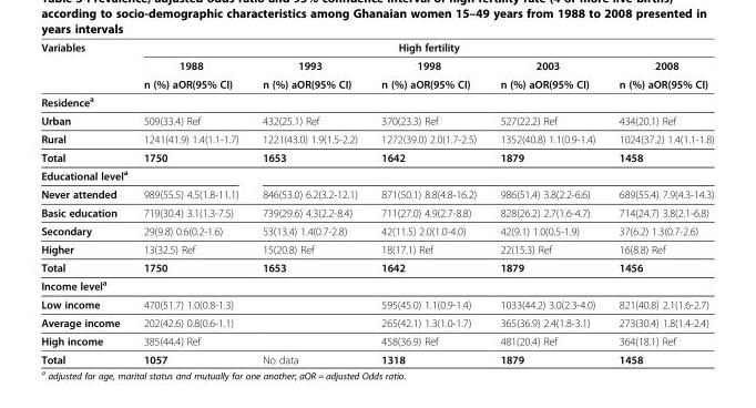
<table><thead><tr><td rowspan="3">Variables</td><td colspan="5">High fertility</td></tr><tr><td rowspan="2">1988 n (%) aOR(95% CI)</td><td rowspan="2">1993 n (%) aOR(95% CI)</td><td rowspan="2">1998 n (%) aOR(95% CI)</td><td rowspan="2">2003 n (%) aOR(95% CI)</td><td rowspan="2">2008 n (%) aOR(95% CI)</td></tr><tr></tr></thead><tbody><tr><td colspan="6">Residence<sup>a</sup></td></tr><tr><td>Urban</td><td>509(33.4) Ref</td><td>432(25.1) Ref</td><td>370(23.3) Ref</td><td>527(22.2) Ref</td><td>434(20.1) Ref</td></tr><tr><td>Rural</td><td>1241(41.9) 1.4(1.1-1.7)</td><td>1221(43.0) 1.9(1.5-2.2)</td><td>1272(39.0) 2.0(1.7-2.5)</td><td>1352(40.8) 1.1(0.9-1.4)</td><td>1024(37.2) 1.4(1.1-1.8)</td></tr><tr><td>Total</td><td>1750</td><td>1653</td><td>1642</td><td>1879</td><td>1458</td></tr><tr><td colspan="6">Educational level<sup>a</sup></td></tr><tr><td>Never attended</td><td>989(55.5) 4.5(1.8-11.1)</td><td>846(53.0) 6.2(3.2-12.1)</td><td>871(50.1) 8.8(4.8-16.2)</td><td>986(51.4) 3.8(2.2-6.6)</td><td>689(55.4) 7.9(4.3-14.3)</td></tr><tr><td>Basic education</td><td>719(30.4) 3.1(1.3-7.5)</td><td>739(29.6) 4.3(2.2-8.4)</td><td>711(27.0) 4.9(2.7-8.8)</td><td>828(26.2) 2.7(1.6-4.7)</td><td>714(24.7) 3.8(2.1-6.8)</td></tr><tr><td>Secondary</td><td>29(9.8) 0.6(0.2-1.6)</td><td>53(13.4) 1.4(0.7-2.8)</td><td>42(11.5) 2.0(1.0-4.0)</td><td>42(9.1) 1.0(0.5-1.9)</td><td>37(6.2) 1.3(0.7-2.6)</td></tr><tr><td>Higher</td><td>13(32.5) Ref</td><td>15(20.8) Ref</td><td>18(17.1) Ref</td><td>22(15.3) Ref</td><td>16(8.8) Ref</td></tr><tr><td>Total</td><td>1750</td><td>1653</td><td>1642</td><td>1879</td><td>1456</td></tr><tr><td colspan="6">Income level<sup>a</sup></td></tr><tr><td>Low income</td><td>470(51.7) 1.0(0.8-1.3)</td><td></td><td>595(45.0) 1.1(0.9-1.4)</td><td>1033(44.2) 3.0(2.3-4.0)</td><td>821(40.8) 2.1(1.6-2.7)</td></tr><tr><td>Average income</td><td>202(42.6) 0.8(0.6-1.1)</td><td></td><td>265(42.1) 1.3(1.0-1.7)</td><td>365(36.9) 2.4(1.8-3.1)</td><td>273(30.4) 1.8(1.4-2.4)</td></tr><tr><td>High income</td><td>385(44.4) Ref</td><td></td><td>458(36.9) Ref</td><td>481(20.4) Ref</td><td>364(18.1) Ref</td></tr><tr><td>Total</td><td>1057</td><td>No data</td><td>1318</td><td>1879</td><td>1458</td></tr></tbody></table>